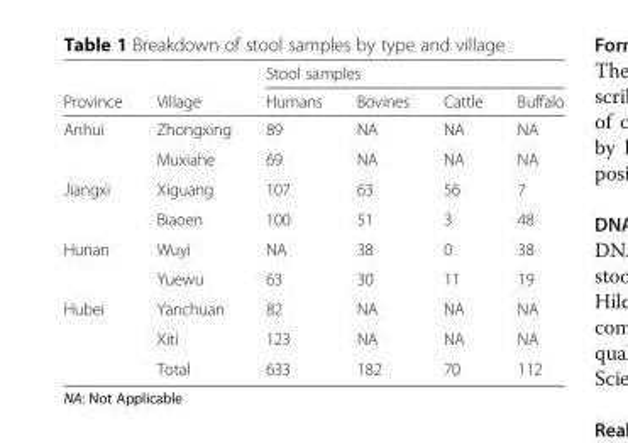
<table><thead><tr><td rowspan="2">Province</td><td rowspan="2">Village</td><td colspan="4">Stool samples</td></tr><tr><td>Humans</td><td>Bovines</td><td>Cattle</td><td>Buffalo</td></tr></thead><tbody><tr><td rowspan="2">Anhui</td><td>Zhongxing</td><td>89</td><td>NA</td><td>NA</td><td>NA</td></tr><tr><td>Muxiahe</td><td>69</td><td>NA</td><td>NA</td><td>NA</td></tr><tr><td rowspan="2">Jiangxi</td><td>Xiguang</td><td>107</td><td>63</td><td>56</td><td>7</td></tr><tr><td>Biaoen</td><td>100</td><td>51</td><td>3</td><td>48</td></tr><tr><td rowspan="2">Hunan</td><td>Wuyi</td><td>NA</td><td>38</td><td>0</td><td>38</td></tr><tr><td>Yuewu</td><td>63</td><td>30</td><td>11</td><td>19</td></tr><tr><td rowspan="3">Hubei</td><td>Yanchuan</td><td>82</td><td>NA</td><td>NA</td><td>NA</td></tr><tr><td>Xiti</td><td>123</td><td>NA</td><td>NA</td><td>NA</td></tr><tr><td>Total</td><td>633</td><td>182</td><td>70</td><td>112</td></tr></tbody></table>